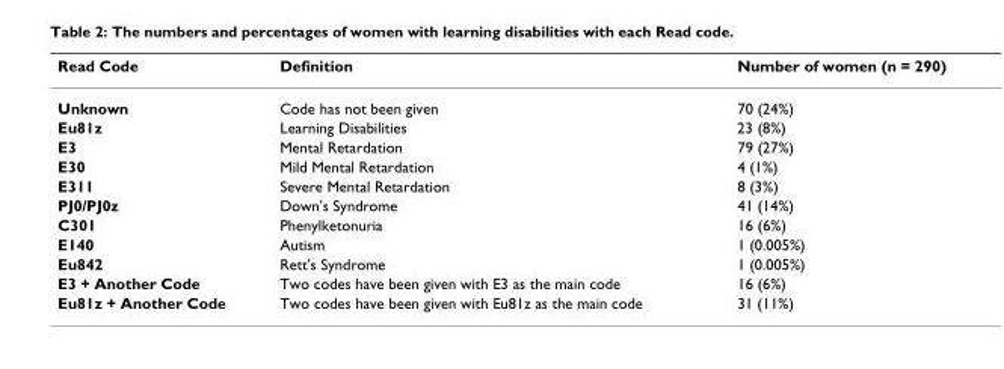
<table><thead><tr><td>Read Code</td><td>Definition</td><td>Number of women (n = 290)</td></tr></thead><tbody><tr><td>Unknown</td><td>Code has not been given</td><td>70 (24%)</td></tr><tr><td>Eu81z</td><td>Learning Disabilities</td><td>23 (8%)</td></tr><tr><td>E3</td><td>Mental Retardation</td><td>79 (27%)</td></tr><tr><td>E30</td><td>Mild Mental Retardation</td><td>4 (1%)</td></tr><tr><td>E311</td><td>Severe Mental Retardation</td><td>8 (3%)</td></tr><tr><td>PJ0/PJ0z</td><td>Down&#x27;s Syndrome</td><td>41 (14%)</td></tr><tr><td>C301</td><td>Phenylketonuria</td><td>16 (6%)</td></tr><tr><td>E140</td><td>Autism</td><td>1 (0.005%)</td></tr><tr><td>Eu842</td><td>Rett&#x27;s Syndrome</td><td>1 (0.005%)</td></tr><tr><td>E3 + Another Code</td><td>Two codes have been given with E3 as the main code</td><td>16 (6%)</td></tr><tr><td>Eu81z + Another Code</td><td>Two codes have been given with Eu81z as the main code</td><td>31 (11%)</td></tr></tbody></table>